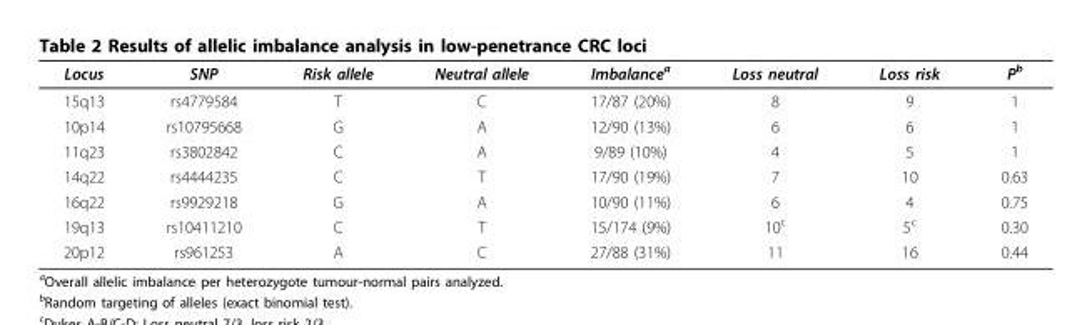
<table><thead><tr><td>Locus</td><td>SNP</td><td>Risk allele</td><td>Neutral allele</td><td>Imbalance<sup>a</sup></td><td>Loss neutral</td><td>Loss risk</td><td>P<sup>b</sup></td></tr></thead><tbody><tr><td>15q13</td><td>rs4779584</td><td>T</td><td>C</td><td>17/87 (20%)</td><td>8</td><td>9</td><td>1</td></tr><tr><td>10p14</td><td>rs10795668</td><td>G</td><td>A</td><td>12/90 (13%)</td><td>6</td><td>6</td><td>1</td></tr><tr><td>11q23</td><td>rs3802842</td><td>C</td><td>A</td><td>9/89 (10%)</td><td>4</td><td>5</td><td>1</td></tr><tr><td>14q22</td><td>rs4444235</td><td>C</td><td>T</td><td>17/90 (19%)</td><td>7</td><td>10</td><td>0.63</td></tr><tr><td>16q22</td><td>rs9929218</td><td>G</td><td>A</td><td>10/90 (11%)</td><td>6</td><td>4</td><td>0.75</td></tr><tr><td>19q13</td><td>rs10411210</td><td>C</td><td>T</td><td>15/174 (9%)</td><td>10<sup>c</sup></td><td>5<sup>c</sup></td><td>0.30</td></tr><tr><td>20p12</td><td>rs961253</td><td>A</td><td>C</td><td>27/88 (31%)</td><td>11</td><td>16</td><td>0.44</td></tr></tbody></table>